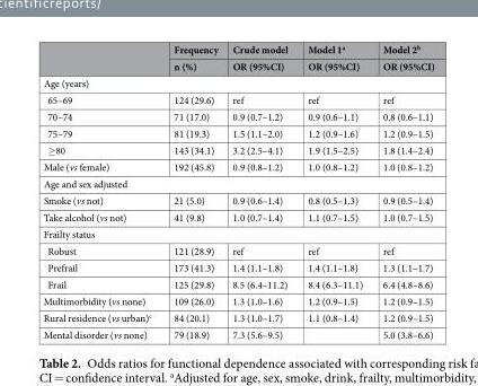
<table><thead><tr><td rowspan="2"></td><td rowspan="2">Frequency n (%)</td><td rowspan="2">Crude model OR (95%CI)</td><td rowspan="2">Model 1<sup>a</sup> OR (95%CI)</td><td rowspan="2">Model 2<sup>b</sup> OR (95%CI)</td></tr><tr></tr></thead><tbody><tr><td colspan="5">Age (years)</td></tr><tr><td>65–69</td><td>124 (29.6)</td><td>ref</td><td>ref</td><td>ref</td></tr><tr><td>70–74</td><td>71 (17.0)</td><td>0.9 (0.7–1.2)</td><td>0.9 (0.6–1.1)</td><td>0.8 (0.6–1.1)</td></tr><tr><td>75–79</td><td>81 (19.3)</td><td>1.5 (1.1–2.0)</td><td>1.2 (0.9–1.6)</td><td>1.2 (0.9–1.5)</td></tr><tr><td>≥80</td><td>143 (34.1)</td><td>3.2 (2.5–4.1)</td><td>1.9 (1.5–2.5)</td><td>1.8 (1.4–2.4)</td></tr><tr><td>Male (vs female)</td><td>192 (45.8)</td><td>0.9 (0.8–1.2)</td><td>1.0 (0.8–1.2)</td><td>1.0 (0.8–1.2)</td></tr><tr><td colspan="5">Age and sex adjusted</td></tr><tr><td>Smoke (vs not)</td><td>21 (5.0)</td><td>0.9 (0.6–1.4)</td><td>0.8 (0.5–1.3)</td><td>0.9 (0.5–1.4)</td></tr><tr><td>Take alcohol (vs not)</td><td>41 (9.8)</td><td>1.0 (0.7–1.4)</td><td>1.1 (0.7–1.5)</td><td>1.0 (0.7–1.5)</td></tr><tr><td colspan="5">Frailty status</td></tr><tr><td>Robust</td><td>121 (28.9)</td><td>ref</td><td>ref</td><td>ref</td></tr><tr><td>Prefrail</td><td>173 (41.3)</td><td>1.4 (1.1–1.8)</td><td>1.4 (1.1–1.8)</td><td>1.3 (1.1–1.7)</td></tr><tr><td>Frail</td><td>125 (29.8)</td><td>8.5 (6.4–11.2)</td><td>8.4 (6.3–11.1)</td><td>6.4 (4.8–8.6)</td></tr><tr><td>Multimorbidity (vs none)</td><td>109 (26.0)</td><td>1.3 (1.0–1.6)</td><td>1.2 (0.9–1.5)</td><td>1.2 (0.9–1.5)</td></tr><tr><td>Rural residence (vs urban)<sup>c</sup></td><td>84 (20.1)</td><td>1.3 (1.0–1.7)</td><td>1.1 (0.8–1.4)</td><td>1.2 (0.9–1.5)</td></tr><tr><td>Mental disorder (vs none)</td><td>79 (18.9)</td><td>7.3 (5.6–9.5)</td><td></td><td>5.0 (3.8–6.6)</td></tr></tbody></table>